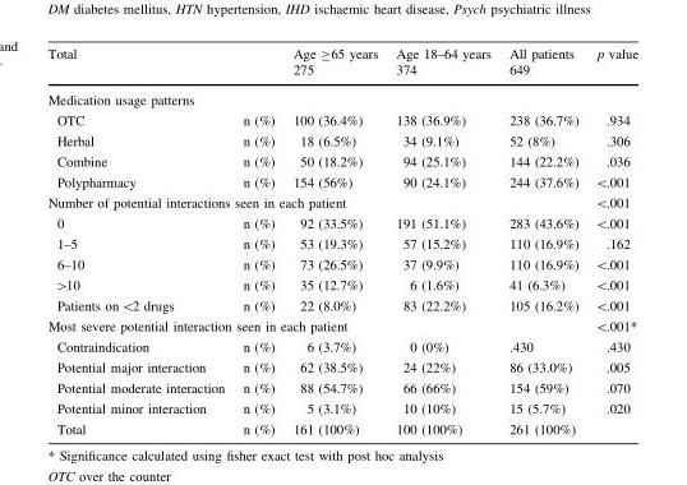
<table><thead><tr><td rowspan="2">Total</td><td rowspan="2"></td><td rowspan="2">Age ≥65 years 275</td><td rowspan="2">Age 18–64 years 374</td><td rowspan="2">All patients 649</td><td rowspan="2">p value</td></tr><tr></tr></thead><tbody><tr><td colspan="6">Medication usage patterns</td></tr><tr><td>OTC</td><td>n (%)</td><td>100 (36.4%)</td><td>138 (36.9%)</td><td>238 (36.7%)</td><td>.934</td></tr><tr><td>Herbal</td><td>n (%)</td><td>18 (6.5%)</td><td>34 (9.1%)</td><td>52 (8%)</td><td>.306</td></tr><tr><td>Combine</td><td>n (%)</td><td>50 (18.2%)</td><td>94 (25.1%)</td><td>144 (22.2%)</td><td>.036</td></tr><tr><td>Polypharmacy</td><td>n (%)</td><td>154 (56%)</td><td>90 (24.1%)</td><td>244 (37.6%)</td><td>&lt;.001</td></tr><tr><td colspan="5">Number of potential interactions seen in each patient</td><td>&lt;.001</td></tr><tr><td>0</td><td>n (%)</td><td>92 (33.5%)</td><td>191 (51.1%)</td><td>283 (43.6%)</td><td>&lt;.001</td></tr><tr><td>1–5</td><td>n (%)</td><td>53 (19.3%)</td><td>57 (15.2%)</td><td>110 (16.9%)</td><td>.162</td></tr><tr><td>6–10</td><td>n (%)</td><td>73 (26.5%)</td><td>37 (9.9%)</td><td>110 (16.9%)</td><td>&lt;.001</td></tr><tr><td>&gt;10</td><td>n (%)</td><td>35 (12.7%)</td><td>6 (1.6%)</td><td>41 (6.3%)</td><td>&lt;.001</td></tr><tr><td>Patients on &lt;2 drugs</td><td>n (%)</td><td>22 (8.0%)</td><td>83 (22.2%)</td><td>105 (16.2%)</td><td>&lt;.001</td></tr><tr><td colspan="5">Most severe potential interaction seen in each patient</td><td>&lt;.001*</td></tr><tr><td>Contraindication</td><td>n (%)</td><td>6 (3.7%)</td><td>0 (0%)</td><td>.430</td><td>.430</td></tr><tr><td>Potential major interaction</td><td>n (%)</td><td>62 (38.5%)</td><td>24 (22%)</td><td>86 (33.0%)</td><td>.005</td></tr><tr><td>Potential moderate interaction</td><td>n (%)</td><td>88 (54.7%)</td><td>66 (66%)</td><td>154 (59%)</td><td>.070</td></tr><tr><td>Potential minor interaction</td><td>n (%)</td><td>5 (3.1%)</td><td>10 (10%)</td><td>15 (5.7%)</td><td>.020</td></tr><tr><td>Total</td><td>n (%)</td><td>161 (100%)</td><td>100 (100%)</td><td>261 (100%)</td><td></td></tr></tbody></table>